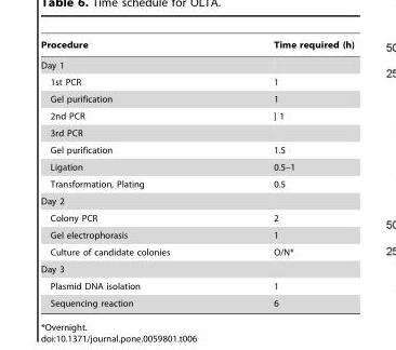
<table><thead><tr><td>Procedure</td><td>Time required (h)</td></tr></thead><tbody><tr><td colspan="2">Day 1</td></tr><tr><td>1st PCR</td><td>1</td></tr><tr><td>Gel purification</td><td>1</td></tr><tr><td>2nd PCR</td><td>] 1</td></tr><tr><td colspan="2">3rd PCR</td></tr><tr><td>Gel purification</td><td>1.5</td></tr><tr><td>Ligation</td><td>0.5–1</td></tr><tr><td>Transformation, Plating</td><td>0.5</td></tr><tr><td colspan="2">Day 2</td></tr><tr><td>Colony PCR</td><td>2</td></tr><tr><td>Gel electrophorasis</td><td>1</td></tr><tr><td>Culture of candidate colonies</td><td>O/N*</td></tr><tr><td colspan="2">Day 3</td></tr><tr><td>Plasmid DNA isolation</td><td>1</td></tr><tr><td>Sequencing reaction</td><td>6</td></tr></tbody></table>